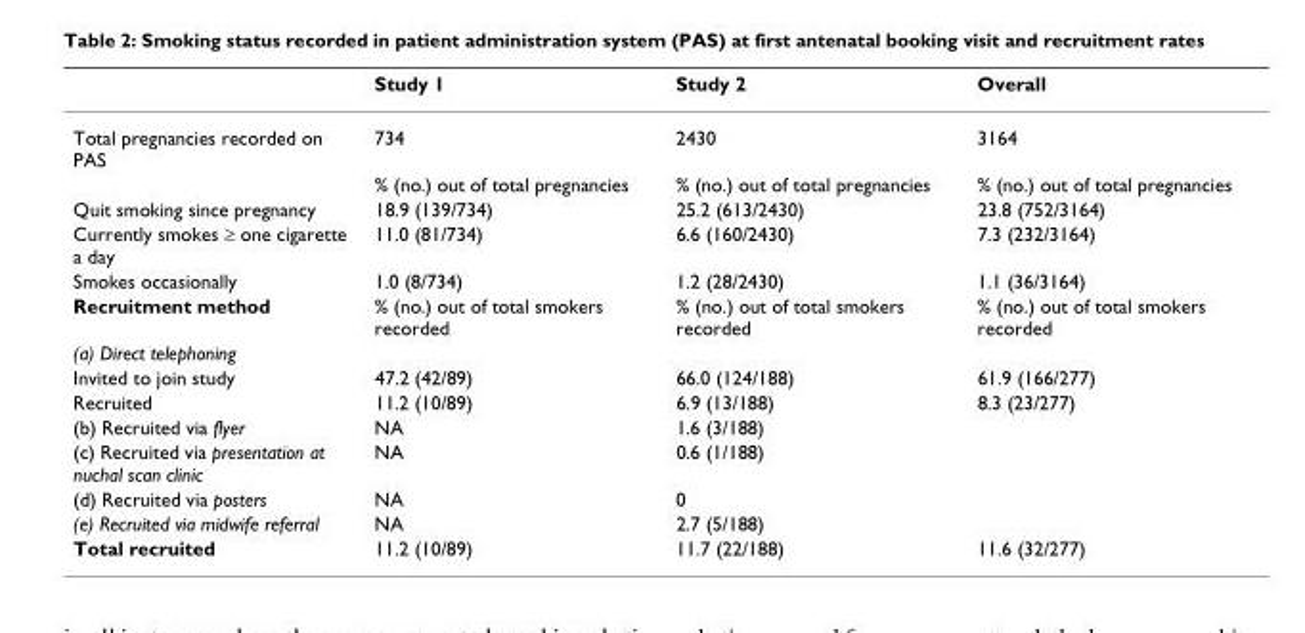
<table><thead><tr><td></td><td>Study 1</td><td>Study 2</td><td>Overall</td></tr></thead><tbody><tr><td rowspan="2">Total pregnancies recorded on PAS</td><td>734</td><td>2430</td><td>3164</td></tr><tr><td>% (no.) out of total pregnancies</td><td>% (no.) out of total pregnancies</td><td>% (no.) out of total pregnancies</td></tr><tr><td>Quit smoking since pregnancy</td><td>18.9 (139/734)</td><td>25.2 (613/2430)</td><td>23.8 (752/3164)</td></tr><tr><td>Currently smokes ≥ one cigarette a day</td><td>11.0 (81/734)</td><td>6.6 (160/2430)</td><td>7.3 (232/3164)</td></tr><tr><td>Smokes occasionally</td><td>1.0 (8/734)</td><td>1.2 (28/2430)</td><td>1.1 (36/3164)</td></tr><tr><td>Recruitment method</td><td>% (no.) out of total smokers recorded</td><td>% (no.) out of total smokers recorded</td><td>% (no.) out of total smokers recorded</td></tr><tr><td colspan="4">(a) Direct telephoning</td></tr><tr><td>Invited to join study</td><td>47.2 (42/89)</td><td>66.0 (124/188)</td><td>61.9 (166/277)</td></tr><tr><td>Recruited</td><td>11.2 (10/89)</td><td>6.9 (13/188)</td><td>8.3 (23/277)</td></tr><tr><td>(b) Recruited via flyer</td><td>NA</td><td>1.6 (3/188)</td><td></td></tr><tr><td>(c) Recruited via presentation at nuchal scan clinic</td><td>NA</td><td>0.6 (1/188)</td><td></td></tr><tr><td>(d) Recruited via posters</td><td>NA</td><td>0</td><td></td></tr><tr><td>(e) Recruited via midwife referral</td><td>NA</td><td>2.7 (5/188)</td><td></td></tr><tr><td>Total recruited</td><td>11.2 (10/89)</td><td>11.7 (22/188)</td><td>11.6 (32/277)</td></tr></tbody></table>